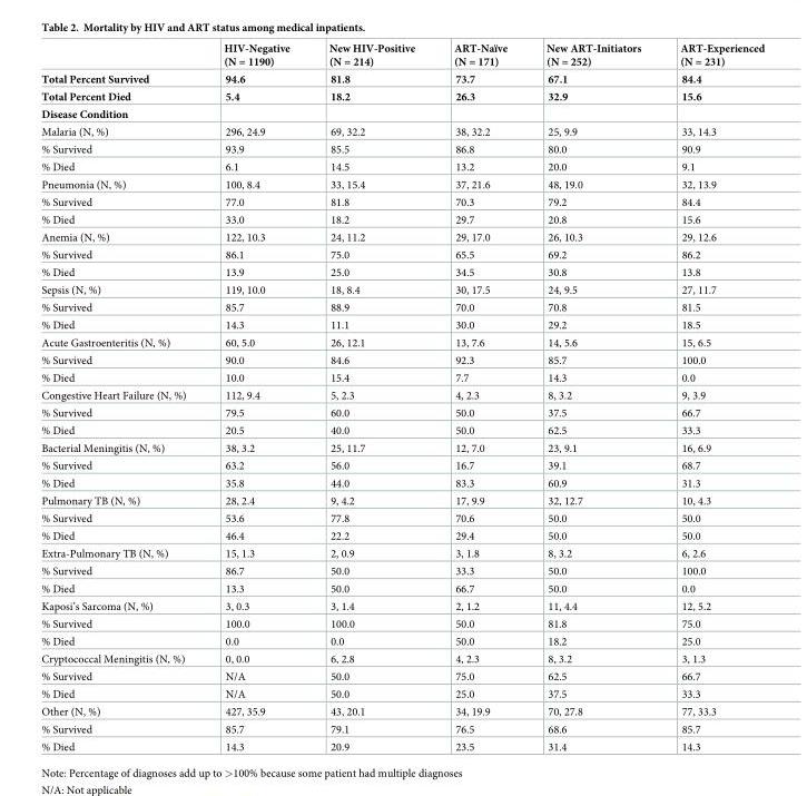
<table><thead><tr><td></td><td>HIV-Negative (N = 1190)</td><td>New HIV-Positive (N = 214)</td><td>ART-Naïve (N = 171)</td><td>New ART-Initiators (N = 252)</td><td>ART-Experienced (N = 231)</td></tr></thead><tbody><tr><td>Total Percent Survived</td><td>94.6</td><td>81.8</td><td>73.7</td><td>67.1</td><td>84.4</td></tr><tr><td>Total Percent Died</td><td>5.4</td><td>18.2</td><td>26.3</td><td>32.9</td><td>15.6</td></tr><tr><td colspan="6">Disease Condition</td></tr><tr><td>Malaria (N, %)</td><td>296, 24.9</td><td>69, 32.2</td><td>38, 32.2</td><td>25, 9.9</td><td>33, 14.3</td></tr><tr><td>% Survived</td><td>93.9</td><td>85.5</td><td>86.8</td><td>80.0</td><td>90.9</td></tr><tr><td>% Died</td><td>6.1</td><td>14.5</td><td>13.2</td><td>20.0</td><td>9.1</td></tr><tr><td>Pneumonia (N, %)</td><td>100, 8.4</td><td>33, 15.4</td><td>37, 21.6</td><td>48, 19.0</td><td>32, 13.9</td></tr><tr><td>% Survived</td><td>77.0</td><td>81.8</td><td>70.3</td><td>79.2</td><td>84.4</td></tr><tr><td>% Died</td><td>33.0</td><td>18.2</td><td>29.7</td><td>20.8</td><td>15.6</td></tr><tr><td>Anemia (N, %)</td><td>122, 10.3</td><td>24, 11.2</td><td>29, 17.0</td><td>26, 10.3</td><td>29, 12.6</td></tr><tr><td>% Survived</td><td>86.1</td><td>75.0</td><td>65.5</td><td>69.2</td><td>86.2</td></tr><tr><td>% Died</td><td>13.9</td><td>25.0</td><td>34.5</td><td>30.8</td><td>13.8</td></tr><tr><td>Sepsis (N, %)</td><td>119, 10.0</td><td>18, 8.4</td><td>30, 17.5</td><td>24, 9.5</td><td>27, 11.7</td></tr><tr><td>% Survived</td><td>85.7</td><td>88.9</td><td>70.0</td><td>70.8</td><td>81.5</td></tr><tr><td>% Died</td><td>14.3</td><td>11.1</td><td>30.0</td><td>29.2</td><td>18.5</td></tr><tr><td>Acute Gastroenteritis (N, %)</td><td>60, 5.0</td><td>26, 12.1</td><td>13, 7.6</td><td>14, 5.6</td><td>15, 6.5</td></tr><tr><td>% Survived</td><td>90.0</td><td>84.6</td><td>92.3</td><td>85.7</td><td>100.0</td></tr><tr><td>% Died</td><td>10.0</td><td>15.4</td><td>7.7</td><td>14.3</td><td>0.0</td></tr><tr><td>Congestive Heart Failure (N, %)</td><td>112, 9.4</td><td>5, 2.3</td><td>4, 2.3</td><td>8, 3.2</td><td>9, 3.9</td></tr><tr><td>% Survived</td><td>79.5</td><td>60.0</td><td>50.0</td><td>37.5</td><td>66.7</td></tr><tr><td>% Died</td><td>20.5</td><td>40.0</td><td>50.0</td><td>62.5</td><td>33.3</td></tr><tr><td>Bacterial Meningitis (N, %)</td><td>38, 3.2</td><td>25, 11.7</td><td>12, 7.0</td><td>23, 9.1</td><td>16, 6.9</td></tr><tr><td>% Survived</td><td>63.2</td><td>56.0</td><td>16.7</td><td>39.1</td><td>68.7</td></tr><tr><td>% Died</td><td>35.8</td><td>44.0</td><td>83.3</td><td>60.9</td><td>31.3</td></tr><tr><td>Pulmonary TB (N, %)</td><td>28, 2.4</td><td>9, 4.2</td><td>17, 9.9</td><td>32, 12.7</td><td>10, 4.3</td></tr><tr><td>% Survived</td><td>53.6</td><td>77.8</td><td>70.6</td><td>50.0</td><td>50.0</td></tr><tr><td>% Died</td><td>46.4</td><td>22.2</td><td>29.4</td><td>50.0</td><td>50.0</td></tr><tr><td>Extra-Pulmonary TB (N, %)</td><td>15, 1.3</td><td>2, 0.9</td><td>3, 1.8</td><td>8, 3.2</td><td>6, 2.6</td></tr><tr><td>% Survived</td><td>86.7</td><td>50.0</td><td>33.3</td><td>50.0</td><td>100.0</td></tr><tr><td>% Died</td><td>13.3</td><td>50.0</td><td>66.7</td><td>50.0</td><td>0.0</td></tr><tr><td>Kaposi’s Sarcoma (N, %)</td><td>3, 0.3</td><td>3, 1.4</td><td>2, 1.2</td><td>11, 4.4</td><td>12, 5.2</td></tr><tr><td>% Survived</td><td>100.0</td><td>100.0</td><td>50.0</td><td>81.8</td><td>75.0</td></tr><tr><td>% Died</td><td>0.0</td><td>0.0</td><td>50.0</td><td>18.2</td><td>25.0</td></tr><tr><td>Cryptococcal Meningitis (N, %)</td><td>0, 0.0</td><td>6, 2.8</td><td>4, 2.3</td><td>8, 3.2</td><td>3, 1.3</td></tr><tr><td>% Survived</td><td>N/A</td><td>50.0</td><td>75.0</td><td>62.5</td><td>66.7</td></tr><tr><td>% Died</td><td>N/A</td><td>50.0</td><td>25.0</td><td>37.5</td><td>33.3</td></tr><tr><td>Other (N, %)</td><td>427, 35.9</td><td>43, 20.1</td><td>34, 19.9</td><td>70, 27.8</td><td>77, 33.3</td></tr><tr><td>% Survived</td><td>85.7</td><td>79.1</td><td>76.5</td><td>68.6</td><td>85.7</td></tr><tr><td>% Died</td><td>14.3</td><td>20.9</td><td>23.5</td><td>31.4</td><td>14.3</td></tr></tbody></table>